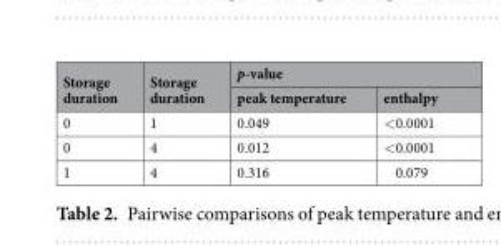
<table><thead><tr><td rowspan="2">Storage duration</td><td rowspan="2">Storage duration</td><td colspan="2">p-value</td></tr><tr><td>peak temperature</td><td>enthalpy</td></tr></thead><tbody><tr><td>0</td><td>1</td><td>0.049</td><td>&lt;0.0001</td></tr><tr><td>0</td><td>4</td><td>0.012</td><td>&lt;0.0001</td></tr><tr><td>1</td><td>4</td><td>0.316</td><td>0.079</td></tr></tbody></table>